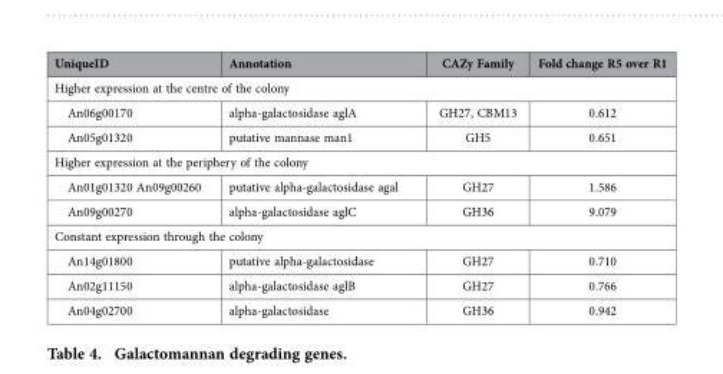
<table><thead><tr><td>UniqueID</td><td>Annotation</td><td>CAZy Family</td><td>Fold change R5 over R1</td></tr></thead><tbody><tr><td colspan="4">Higher expression at the centre of the colony</td></tr><tr><td>An06g00170</td><td>alpha-galactosidase aglA</td><td>GH27, CBM13</td><td>0.612</td></tr><tr><td>An05g01320</td><td>putative mannase man1</td><td>GH5</td><td>0.651</td></tr><tr><td colspan="4">Higher expression at the periphery of the colony</td></tr><tr><td>An01g01320 An09g00260</td><td>putative alpha-galactosidase agal</td><td>GH27</td><td>1.586</td></tr><tr><td>An09g00270</td><td>alpha-galactosidase aglC</td><td>GH36</td><td>9.079</td></tr><tr><td colspan="4">Constant expression through the colony</td></tr><tr><td>An14g01800</td><td>putative alpha-galactosidase</td><td>GH27</td><td>0.710</td></tr><tr><td>An02g11150</td><td>alpha-galactosidase aglB</td><td>GH27</td><td>0.766</td></tr><tr><td>An04g02700</td><td>alpha-galactosidase</td><td>GH36</td><td>0.942</td></tr></tbody></table>